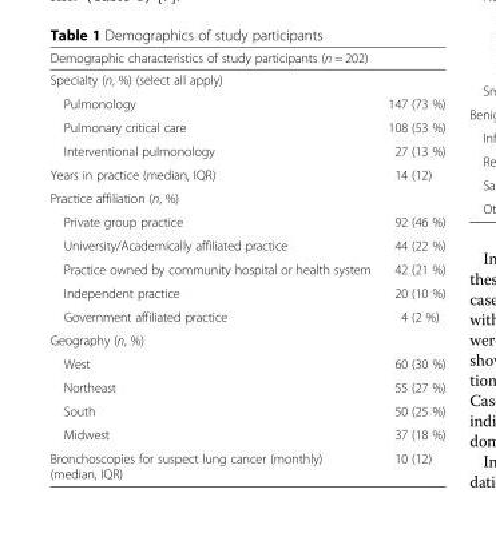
<table><thead><tr><td>Demographic characteristics of study participants (n = 202)</td><td></td></tr></thead><tbody><tr><td colspan="2">Specialty (n, %) (select all apply)</td></tr><tr><td>Pulmonology</td><td>147 (73 %)</td></tr><tr><td>Pulmonary critical care</td><td>108 (53 %)</td></tr><tr><td>Interventional pulmonology</td><td>27 (13 %)</td></tr><tr><td>Years in practice (median, IQR)</td><td>14 (12)</td></tr><tr><td colspan="2">Practice affiliation (n, %)</td></tr><tr><td>Private group practice</td><td>92 (46 %)</td></tr><tr><td>University/Academically affiliated practice</td><td>44 (22 %)</td></tr><tr><td>Practice owned by community hospital or health system</td><td>42 (21 %)</td></tr><tr><td>Independent practice</td><td>20 (10 %)</td></tr><tr><td>Government affiliated practice</td><td>4 (2 %)</td></tr><tr><td colspan="2">Geography (n, %)</td></tr><tr><td>West</td><td>60 (30 %)</td></tr><tr><td>Northeast</td><td>55 (27 %)</td></tr><tr><td>South</td><td>50 (25 %)</td></tr><tr><td>Midwest</td><td>37 (18 %)</td></tr><tr><td>Bronchoscopies for suspect lung cancer (monthly) (median, IQR)</td><td>10 (12)</td></tr></tbody></table>